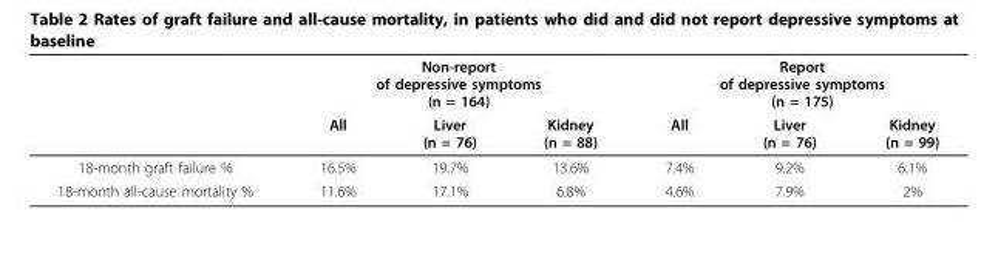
<table><thead><tr><td rowspan="2"></td><td colspan="3">Non-report of depressive symptoms (n = 164)</td><td colspan="3">Report of depressive symptoms (n = 175)</td></tr><tr><td>All</td><td>Liver (n = 76)</td><td>Kidney (n = 88)</td><td>All</td><td>Liver (n = 76)</td><td>Kidney (n = 99)</td></tr></thead><tbody><tr><td>18-month graft failure %</td><td>16.5%</td><td>19.7%</td><td>13.6%</td><td>7.4%</td><td>9.2%</td><td>6.1%</td></tr><tr><td>18-month all-cause mortality %</td><td>11.6%</td><td>17.1%</td><td>6.8%</td><td>4.6%</td><td>7.9%</td><td>2%</td></tr></tbody></table>